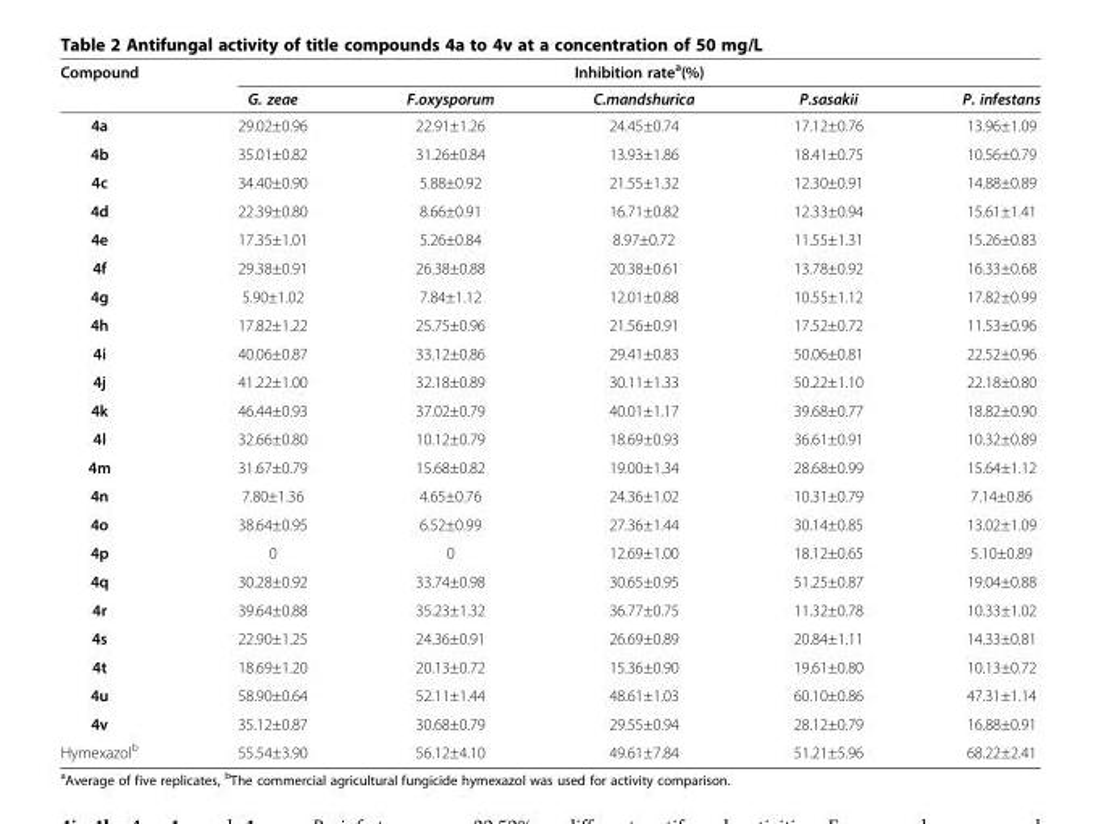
<table><thead><tr><td rowspan="2">Compound</td><td colspan="5">Inhibition rate<sup>a</sup>(%)</td></tr><tr><td>G. zeae</td><td>F.oxysporum</td><td>C.mandshurica</td><td>P.sasakii</td><td>P. infestans</td></tr></thead><tbody><tr><td>4a</td><td>29.02±0.96</td><td>22.91±1.26</td><td>24.45±0.74</td><td>17.12±0.76</td><td>13.96±1.09</td></tr><tr><td>4b</td><td>35.01±0.82</td><td>31.26±0.84</td><td>13.93±1.86</td><td>18.41±0.75</td><td>10.56±0.79</td></tr><tr><td>4c</td><td>34.40±0.90</td><td>5.88±0.92</td><td>21.55±1.32</td><td>12.30±0.91</td><td>14.88±0.89</td></tr><tr><td>4d</td><td>22.39±0.80</td><td>8.66±0.91</td><td>16.71±0.82</td><td>12.33±0.94</td><td>15.61±1.41</td></tr><tr><td>4e</td><td>17.35±1.01</td><td>5.26±0.84</td><td>8.97±0.72</td><td>11.55±1.31</td><td>15.26±0.83</td></tr><tr><td>4f</td><td>29.38±0.91</td><td>26.38±0.88</td><td>20.38±0.61</td><td>13.78±0.92</td><td>16.33±0.68</td></tr><tr><td>4g</td><td>5.90±1.02</td><td>7.84±1.12</td><td>12.01±0.88</td><td>10.55±1.12</td><td>17.82±0.99</td></tr><tr><td>4h</td><td>17.82±1.22</td><td>25.75±0.96</td><td>21.56±0.91</td><td>17.52±0.72</td><td>11.53±0.96</td></tr><tr><td>4i</td><td>40.06±0.87</td><td>33.12±0.86</td><td>29.41±0.83</td><td>50.06±0.81</td><td>22.52±0.96</td></tr><tr><td>4j</td><td>41.22±1.00</td><td>32.18±0.89</td><td>30.11±1.33</td><td>50.22±1.10</td><td>22.18±0.80</td></tr><tr><td>4k</td><td>46.44±0.93</td><td>37.02±0.79</td><td>40.01±1.17</td><td>39.68±0.77</td><td>18.82±0.90</td></tr><tr><td>4l</td><td>32.66±0.80</td><td>10.12±0.79</td><td>18.69±0.93</td><td>36.61±0.91</td><td>10.32±0.89</td></tr><tr><td>4m</td><td>31.67±0.79</td><td>15.68±0.82</td><td>19.00±1.34</td><td>28.68±0.99</td><td>15.64±1.12</td></tr><tr><td>4n</td><td>7.80±1.36</td><td>4.65±0.76</td><td>24.36±1.02</td><td>10.31±0.79</td><td>7.14±0.86</td></tr><tr><td>4o</td><td>38.64±0.95</td><td>6.52±0.99</td><td>27.36±1.44</td><td>30.14±0.85</td><td>13.02±1.09</td></tr><tr><td>4p</td><td>0</td><td>0</td><td>12.69±1.00</td><td>18.12±0.65</td><td>5.10±0.89</td></tr><tr><td>4q</td><td>30.28±0.92</td><td>33.74±0.98</td><td>30.65±0.95</td><td>51.25±0.87</td><td>19.04±0.88</td></tr><tr><td>4r</td><td>39.64±0.88</td><td>35.23±1.32</td><td>36.77±0.75</td><td>11.32±0.78</td><td>10.33±1.02</td></tr><tr><td>4s</td><td>22.90±1.25</td><td>24.36±0.91</td><td>26.69±0.89</td><td>20.84±1.11</td><td>14.33±0.81</td></tr><tr><td>4t</td><td>18.69±1.20</td><td>20.13±0.72</td><td>15.36±0.90</td><td>19.61±0.80</td><td>10.13±0.72</td></tr><tr><td>4u</td><td>58.90±0.64</td><td>52.11±1.44</td><td>48.61±1.03</td><td>60.10±0.86</td><td>47.31±1.14</td></tr><tr><td>4v</td><td>35.12±0.87</td><td>30.68±0.79</td><td>29.55±0.94</td><td>28.12±0.79</td><td>16.88±0.91</td></tr><tr><td>Hymexazol<sup>b</sup></td><td>55.54±3.90</td><td>56.12±4.10</td><td>49.61±7.84</td><td>51.21±5.96</td><td>68.22±2.41</td></tr></tbody></table>